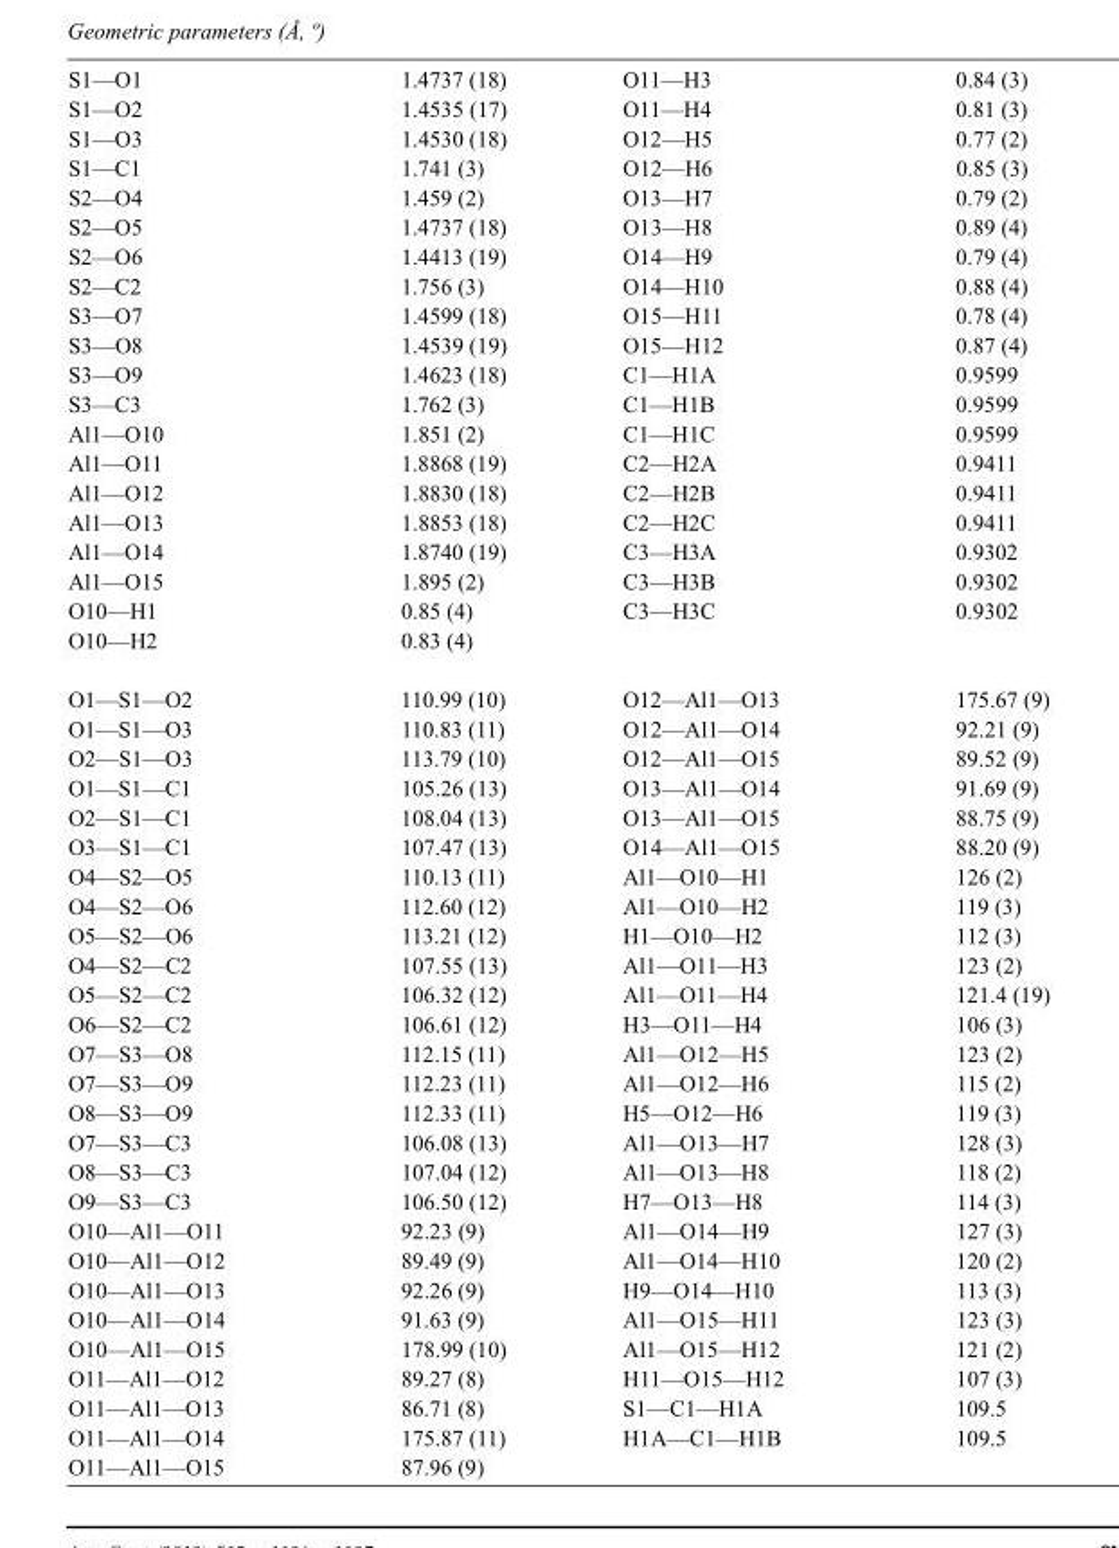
<table><tbody><tr><td>S1—O1</td><td>1.4737 (18)</td><td>O11—H3</td><td>0.84 (3)</td></tr><tr><td>S1—O2</td><td>1.4535 (17)</td><td>O11—H4</td><td>0.81 (3)</td></tr><tr><td>S1—O3</td><td>1.4530 (18)</td><td>O12—H5</td><td>0.77 (2)</td></tr><tr><td>S1—C1</td><td>1.741 (3)</td><td>O12—H6</td><td>0.85 (3)</td></tr><tr><td>S2—O4</td><td>1.459 (2)</td><td>O13—H7</td><td>0.79 (2)</td></tr><tr><td>S2—O5</td><td>1.4737 (18)</td><td>O13—H8</td><td>0.89 (4)</td></tr><tr><td>S2—O6</td><td>1.4413 (19)</td><td>O14—H9</td><td>0.79 (4)</td></tr><tr><td>S2—C2</td><td>1.756 (3)</td><td>O14—H10</td><td>0.88 (4)</td></tr><tr><td>S3—O7</td><td>1.4599 (18)</td><td>O15—H11</td><td>0.78 (4)</td></tr><tr><td>S3—O8</td><td>1.4539 (19)</td><td>O15—H12</td><td>0.87 (4)</td></tr><tr><td>S3—O9</td><td>1.4623 (18)</td><td>C1—H1A</td><td>0.9599</td></tr><tr><td>S3—C3</td><td>1.762 (3)</td><td>C1—H1B</td><td>0.9599</td></tr><tr><td>Al1—O10</td><td>1.851 (2)</td><td>C1—H1C</td><td>0.9599</td></tr><tr><td>Al1—O11</td><td>1.8868 (19)</td><td>C2—H2A</td><td>0.9411</td></tr><tr><td>Al1—O12</td><td>1.8830 (18)</td><td>C2—H2B</td><td>0.9411</td></tr><tr><td>Al1—O13</td><td>1.8853 (18)</td><td>C2—H2C</td><td>0.9411</td></tr><tr><td>Al1—O14</td><td>1.8740 (19)</td><td>C3—H3A</td><td>0.9302</td></tr><tr><td>Al1—O15</td><td>1.895 (2)</td><td>C3—H3B</td><td>0.9302</td></tr><tr><td>O10—H1</td><td>0.85 (4)</td><td>C3—H3C</td><td>0.9302</td></tr><tr><td>O10—H2</td><td>0.83 (4)</td><td></td><td></td></tr><tr><td>O1—S1—O2</td><td>110.99 (10)</td><td>O12—Al1—O13</td><td>175.67 (9)</td></tr><tr><td>O1—S1—O3</td><td>110.83 (11)</td><td>O12—Al1—O14</td><td>92.21 (9)</td></tr><tr><td>O2—S1—O3</td><td>113.79 (10)</td><td>O12—Al1—O15</td><td>89.52 (9)</td></tr><tr><td>O1—S1—C1</td><td>105.26 (13)</td><td>O13—Al1—O14</td><td>91.69 (9)</td></tr><tr><td>O2—S1—C1</td><td>108.04 (13)</td><td>O13—Al1—O15</td><td>88.75 (9)</td></tr><tr><td>O3—S1—C1</td><td>107.47 (13)</td><td>O14—Al1—O15</td><td>88.20 (9)</td></tr><tr><td>O4—S2—O5</td><td>110.13 (11)</td><td>Al1—O10—H1</td><td>126 (2)</td></tr><tr><td>O4—S2—O6</td><td>112.60 (12)</td><td>Al1—O10—H2</td><td>119 (3)</td></tr><tr><td>O5—S2—O6</td><td>113.21 (12)</td><td>H1—O10—H2</td><td>112 (3)</td></tr><tr><td>O4—S2—C2</td><td>107.55 (13)</td><td>Al1—O11—H3</td><td>123 (2)</td></tr><tr><td>O5—S2—C2</td><td>106.32 (12)</td><td>Al1—O11—H4</td><td>121.4 (19)</td></tr><tr><td>O6—S2—C2</td><td>106.61 (12)</td><td>H3—O11—H4</td><td>106 (3)</td></tr><tr><td>O7—S3—O8</td><td>112.15 (11)</td><td>Al1—O12—H5</td><td>123 (2)</td></tr><tr><td>O7—S3—O9</td><td>112.23 (11)</td><td>Al1—O12—H6</td><td>115 (2)</td></tr><tr><td>O8—S3—O9</td><td>112.33 (11)</td><td>H5—O12—H6</td><td>119 (3)</td></tr><tr><td>O7—S3—C3</td><td>106.08 (13)</td><td>Al1—O13—H7</td><td>128 (3)</td></tr><tr><td>O8—S3—C3</td><td>107.04 (12)</td><td>Al1—O13—H8</td><td>118 (2)</td></tr><tr><td>O9—S3—C3</td><td>106.50 (12)</td><td>H7—O13—H8</td><td>114 (3)</td></tr><tr><td>O10—Al1—O11</td><td>92.23 (9)</td><td>Al1—O14—H9</td><td>127 (3)</td></tr><tr><td>O10—Al1—O12</td><td>89.49 (9)</td><td>Al1—O14—H10</td><td>120 (2)</td></tr><tr><td>O10—Al1—O13</td><td>92.26 (9)</td><td>H9—O14—H10</td><td>113 (3)</td></tr><tr><td>O10—Al1—O14</td><td>91.63 (9)</td><td>Al1—O15—H11</td><td>123 (3)</td></tr><tr><td>O10—Al1—O15</td><td>178.99 (10)</td><td>Al1—O15—H12</td><td>121 (2)</td></tr><tr><td>O11—Al1—O12</td><td>89.27 (8)</td><td>H11—O15—H12</td><td>107 (3)</td></tr><tr><td>O11—Al1—O13</td><td>86.71 (8)</td><td>S1—C1—H1A</td><td>109.5</td></tr><tr><td>O11—Al1—O14</td><td>175.87 (11)</td><td>H1A—C1—H1B</td><td>109.5</td></tr><tr><td>O11—Al1—O15</td><td>87.96 (9)</td><td></td><td></td></tr></tbody></table>